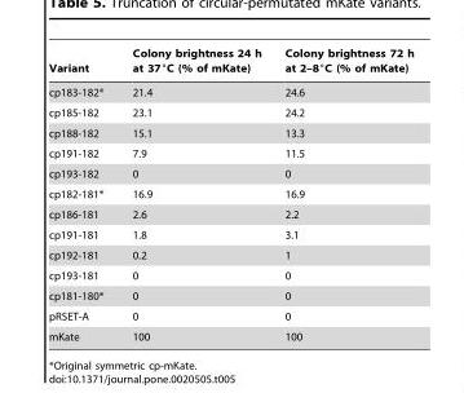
<table><thead><tr><td>Variant</td><td>Colony brightness 24 h at 37°C (% of mKate)</td><td>Colony brightness 72 h at 2–8°C (% of mKate)</td></tr></thead><tbody><tr><td>cp183-182*</td><td>21.4</td><td>24.6</td></tr><tr><td>cp185-182</td><td>23.1</td><td>24.2</td></tr><tr><td>cp188-182</td><td>15.1</td><td>13.3</td></tr><tr><td>cp191-182</td><td>7.9</td><td>11.5</td></tr><tr><td>cp193-182</td><td>0</td><td>0</td></tr><tr><td>cp182-181*</td><td>16.9</td><td>16.9</td></tr><tr><td>cp186-181</td><td>2.6</td><td>2.2</td></tr><tr><td>cp191-181</td><td>1.8</td><td>3.1</td></tr><tr><td>cp192-181</td><td>0.2</td><td>1</td></tr><tr><td>cp193-181</td><td>0</td><td>0</td></tr><tr><td>cp181-180*</td><td>0</td><td>0</td></tr><tr><td>pRSET-A</td><td>0</td><td>0</td></tr><tr><td>mKate</td><td>100</td><td>100</td></tr></tbody></table>